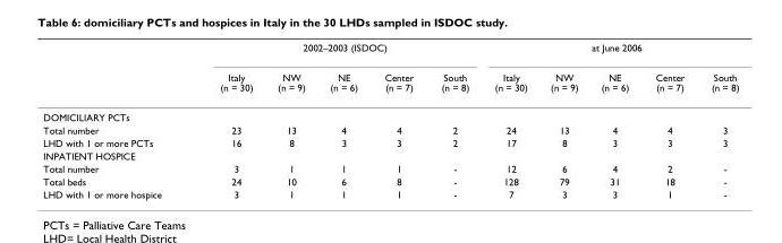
<table><thead><tr><td rowspan="2"></td><td colspan="5">2002–2003 (ISDOC)</td><td colspan="5">at June 2006</td></tr><tr><td>Italy (n = 30)</td><td>NW (n = 9)</td><td>NE (n = 6)</td><td>Center (n = 7)</td><td>South (n = 8)</td><td>Italy (n = 30)</td><td>NW (n = 9)</td><td>NE (n = 6)</td><td>Center (n = 7)</td><td>South (n = 8)</td></tr></thead><tbody><tr><td colspan="11">DOMICILIARY PCTs</td></tr><tr><td>Total number</td><td>23</td><td>13</td><td>4</td><td>4</td><td>2</td><td>24</td><td>13</td><td>4</td><td>4</td><td>3</td></tr><tr><td>LHD with 1 or more PCTs</td><td>16</td><td>8</td><td>3</td><td>3</td><td>2</td><td>17</td><td>8</td><td>3</td><td>3</td><td>3</td></tr><tr><td colspan="11">INPATIENT HOSPICE</td></tr><tr><td>Total number</td><td>3</td><td>1</td><td>1</td><td>1</td><td>-</td><td>12</td><td>6</td><td>4</td><td>2</td><td>-</td></tr><tr><td>Total beds</td><td>24</td><td>10</td><td>6</td><td>8</td><td>-</td><td>128</td><td>79</td><td>31</td><td>18</td><td>-</td></tr><tr><td>LHD with 1 or more hospice</td><td>3</td><td>1</td><td>1</td><td>1</td><td>-</td><td>7</td><td>3</td><td>3</td><td>1</td><td>-</td></tr></tbody></table>